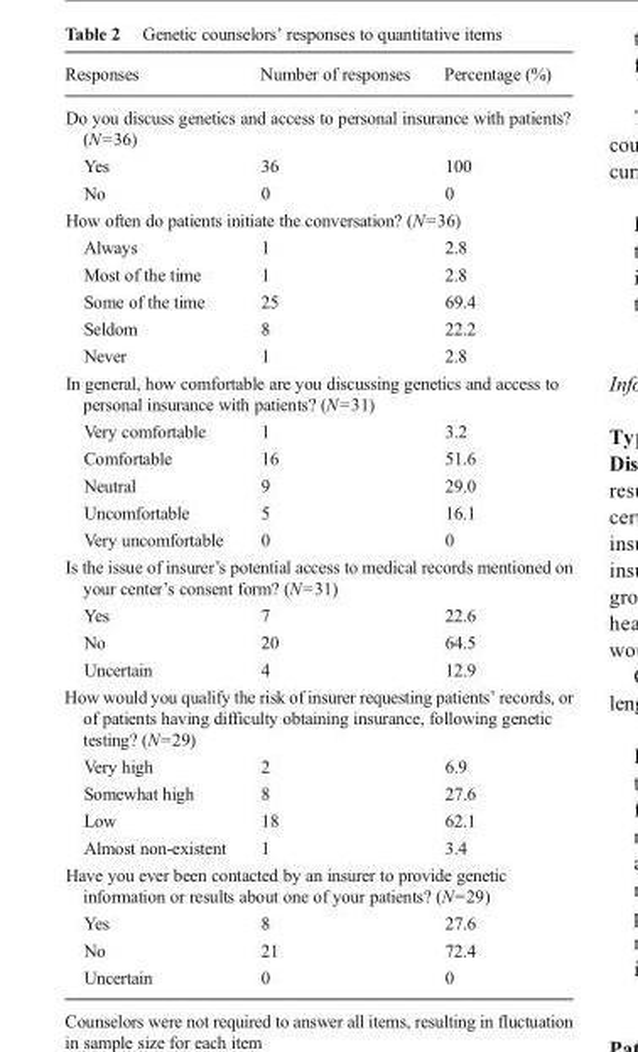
<table><thead><tr><td>Responses</td><td>Number of responses</td><td>Percentage (%)</td></tr></thead><tbody><tr><td colspan="3">Do you discuss genetics and access to personal insurance with patients? (N=36)</td></tr><tr><td>Yes</td><td>36</td><td>100</td></tr><tr><td>No</td><td>0</td><td>0</td></tr><tr><td colspan="3">How often do patients initiate the conversation? (N=36)</td></tr><tr><td>Always</td><td>1</td><td>2.8</td></tr><tr><td>Most of the time</td><td>1</td><td>2.8</td></tr><tr><td>Some of the time</td><td>25</td><td>69.4</td></tr><tr><td>Seldom</td><td>8</td><td>22.2</td></tr><tr><td>Never</td><td>1</td><td>2.8</td></tr><tr><td colspan="3">In general, how comfortable are you discussing genetics and access to personal insurance with patients? (N=31)</td></tr><tr><td>Very comfortable</td><td>1</td><td>3.2</td></tr><tr><td>Comfortable</td><td>16</td><td>51.6</td></tr><tr><td>Neutral</td><td>9</td><td>29.0</td></tr><tr><td>Uncomfortable</td><td>5</td><td>16.1</td></tr><tr><td>Very uncomfortable</td><td>0</td><td>0</td></tr><tr><td colspan="3">Is the issue of insurer’s potential access to medical records mentioned on your center’s consent form? (N=31)</td></tr><tr><td>Yes</td><td>7</td><td>22.6</td></tr><tr><td>No</td><td>20</td><td>64.5</td></tr><tr><td>Uncertain</td><td>4</td><td>12.9</td></tr><tr><td colspan="3">How would you qualify the risk of insurer requesting patients’ records, or of patients having difficulty obtaining insurance, following genetic testing? (N=29)</td></tr><tr><td>Very high</td><td>2</td><td>6.9</td></tr><tr><td>Somewhat high</td><td>8</td><td>27.6</td></tr><tr><td>Low</td><td>18</td><td>62.1</td></tr><tr><td>Almost non-existent</td><td>1</td><td>3.4</td></tr><tr><td colspan="3">Have you ever been contacted by an insurer to provide genetic information or results about one of your patients? (N=29)</td></tr><tr><td>Yes</td><td>8</td><td>27.6</td></tr><tr><td>No</td><td>21</td><td>72.4</td></tr><tr><td>Uncertain</td><td>0</td><td>0</td></tr></tbody></table>